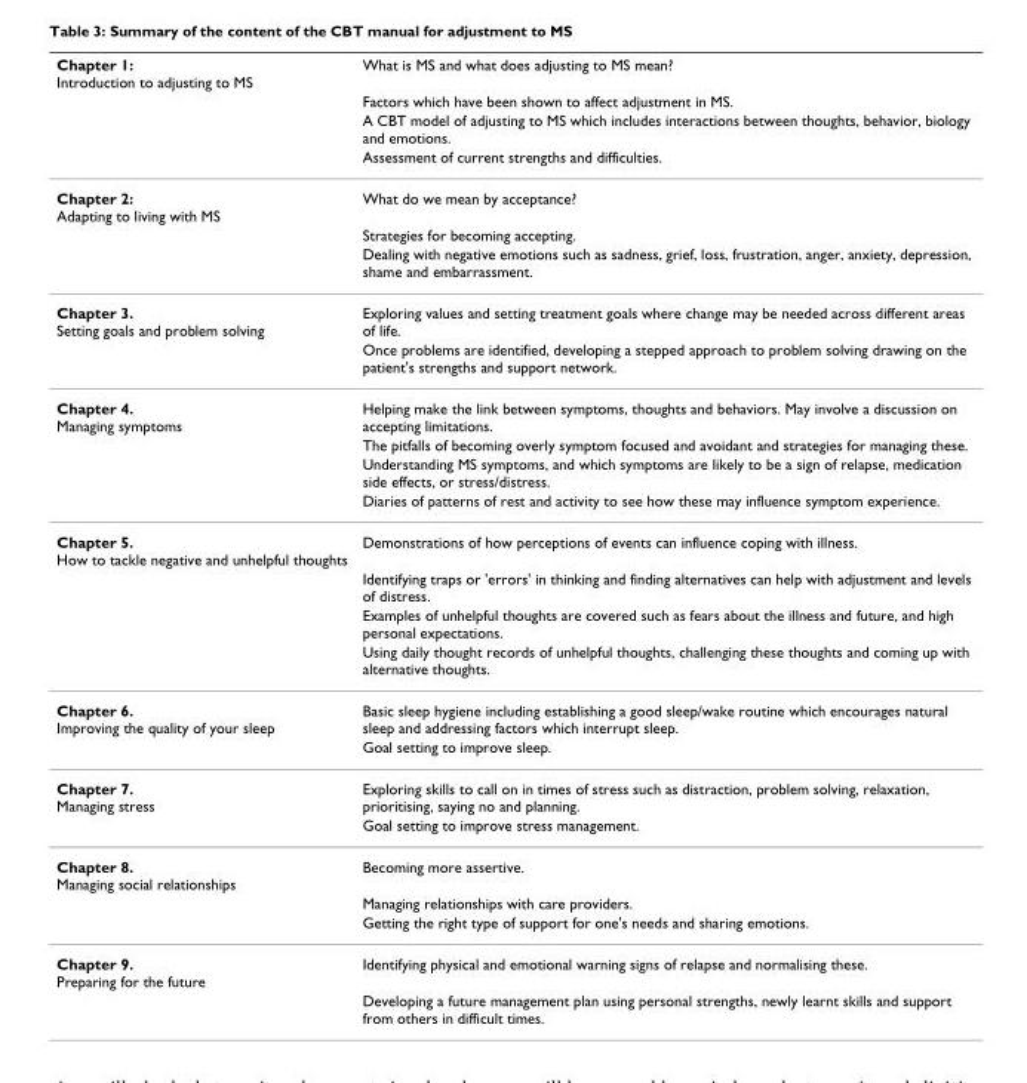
<table><thead><tr><td rowspan="4">Chapter 1: Introduction to adjusting to MS</td><td rowspan="4">What is MS and what does adjusting to MS mean? Factors which have been shown to affect adjustment in MS. A CBT model of adjusting to MS which includes interactions between thoughts, behavior, biology and emotions. Assessment of current strengths and difficulties.</td></tr><tr></tr><tr></tr><tr></tr></thead><tbody><tr><td rowspan="3">Chapter 2: Adapting to living with MS</td><td>What do we mean by acceptance?</td></tr><tr><td>Strategies for becoming accepting.</td></tr><tr><td>Dealing with negative emotions such as sadness, grief, loss, frustration, anger, anxiety, depression, shame and embarrassment.</td></tr><tr><td rowspan="2">Chapter 3. Setting goals and problem solving</td><td>Exploring values and setting treatment goals where change may be needed across different areas of life.</td></tr><tr><td>Once problems are identified, developing a stepped approach to problem solving drawing on the patient&#x27;s strengths and support network.</td></tr><tr><td rowspan="4">Chapter 4. Managing symptoms</td><td>Helping make the link between symptoms, thoughts and behaviors. May involve a discussion on accepting limitations.</td></tr><tr><td>The pitfalls of becoming overly symptom focused and avoidant and strategies for managing these.</td></tr><tr><td>Understanding MS symptoms, and which symptoms are likely to be a sign of relapse, medication side effects, or stress/distress.</td></tr><tr><td>Diaries of patterns of rest and activity to see how these may influence symptom experience.</td></tr><tr><td rowspan="4">Chapter 5. How to tackle negative and unhelpful thoughts</td><td>Demonstrations of how perceptions of events can influence coping with illness.</td></tr><tr><td>Identifying traps or &#x27;errors&#x27; in thinking and finding alternatives can help with adjustment and levels of distress.</td></tr><tr><td>Examples of unhelpful thoughts are covered such as fears about the illness and future, and high personal expectations.</td></tr><tr><td>Using daily thought records of unhelpful thoughts, challenging these thoughts and coming up with alternative thoughts.</td></tr><tr><td rowspan="2">Chapter 6. Improving the quality of your sleep</td><td>Basic sleep hygiene including establishing a good sleep/wake routine which encourages natural sleep and addressing factors which interrupt sleep.</td></tr><tr><td>Goal setting to improve sleep.</td></tr><tr><td rowspan="2">Chapter 7. Managing stress</td><td>Exploring skills to call on in times of stress such as distraction, problem solving, relaxation, prioritising, saying no and planning.</td></tr><tr><td>Goal setting to improve stress management.</td></tr><tr><td rowspan="3">Chapter 8. Managing social relationships</td><td>Becoming more assertive.</td></tr><tr><td>Managing relationships with care providers.</td></tr><tr><td>Getting the right type of support for one&#x27;s needs and sharing emotions.</td></tr><tr><td rowspan="2">Chapter 9. Preparing for the future</td><td>Identifying physical and emotional warning signs of relapse and normalising these.</td></tr><tr><td>Developing a future management plan using personal strengths, newly learnt skills and support from others in difficult times.</td></tr></tbody></table>